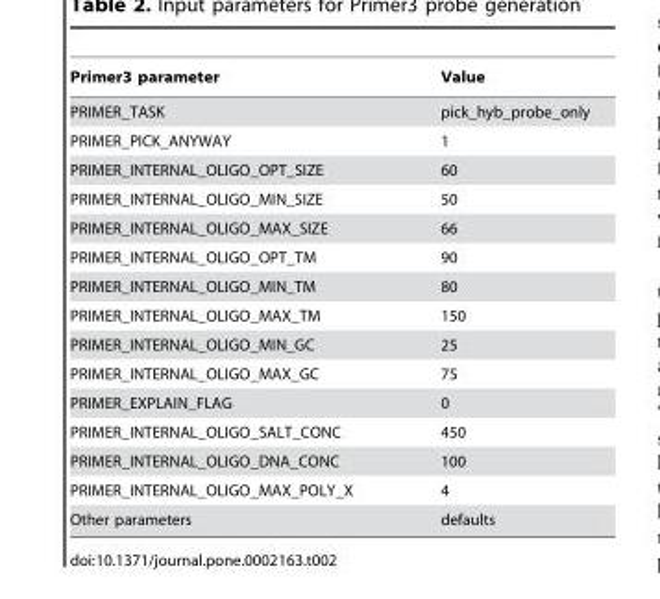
<table><thead><tr><td>Primer3 parameter</td><td>Value</td></tr></thead><tbody><tr><td>PRIMER_TASK</td><td>pick_hyb_probe_only</td></tr><tr><td>PRIMER_PICK_ANYWAY</td><td>1</td></tr><tr><td>PRIMER_INTERNAL_OLIGO_OPT_SIZE</td><td>60</td></tr><tr><td>PRIMER_INTERNAL_OLIGO_MIN_SIZE</td><td>50</td></tr><tr><td>PRIMER_INTERNAL_OLIGO_MAX_SIZE</td><td>66</td></tr><tr><td>PRIMER_INTERNAL_OLIGO_OPT_TM</td><td>90</td></tr><tr><td>PRIMER_INTERNAL_OLIGO_MIN_TM</td><td>80</td></tr><tr><td>PRIMER_INTERNAL_OLIGO_MAX_TM</td><td>150</td></tr><tr><td>PRIMER_INTERNAL_OLIGO_MIN_GC</td><td>25</td></tr><tr><td>PRIMER_INTERNAL_OLIGO_MAX_GC</td><td>75</td></tr><tr><td>PRIMER_EXPLAIN_FLAG</td><td>0</td></tr><tr><td>PRIMER_INTERNAL_OLIGO_SALT_CONC</td><td>450</td></tr><tr><td>PRIMER_INTERNAL_OLIGO_DNA_CONC</td><td>100</td></tr><tr><td>PRIMER_INTERNAL_OLIGO_MAX_POLY_X</td><td>4</td></tr><tr><td>Other parameters</td><td>defaults</td></tr></tbody></table>